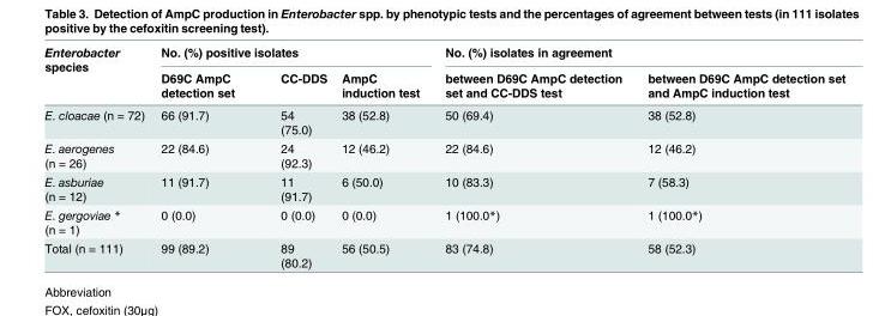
<table><thead><tr><td rowspan="2">Enterobacter species</td><td colspan="3">No. (%) positive isolates</td><td colspan="2">No. (%) isolates in agreement</td></tr><tr><td>D69C AmpC detection set</td><td>CC-DDS</td><td>AmpC induction test</td><td>between D69C AmpC detection set and CC-DDS test</td><td>between D69C AmpC detection set and AmpC induction test</td></tr></thead><tbody><tr><td>E. cloacae (n = 72)</td><td>66 (91.7)</td><td>54 (75.0)</td><td>38 (52.8)</td><td>50 (69.4)</td><td>38 (52.8)</td></tr><tr><td>E. aerogenes (n = 26)</td><td>22 (84.6)</td><td>24 (92.3)</td><td>12 (46.2)</td><td>22 (84.6)</td><td>12 (46.2)</td></tr><tr><td>E. asburiae (n = 12)</td><td>11 (91.7)</td><td>11 (91.7)</td><td>6 (50.0)</td><td>10 (83.3)</td><td>7 (58.3)</td></tr><tr><td>E. gergoviae * (n = 1)</td><td>0 (0.0)</td><td>0 (0.0)</td><td>0 (0.0)</td><td>1 (100.0*)</td><td>1 (100.0*)</td></tr><tr><td>Total (n = 111)</td><td>99 (89.2)</td><td>89 (80.2)</td><td>56 (50.5)</td><td>83 (74.8)</td><td>58 (52.3)</td></tr></tbody></table>